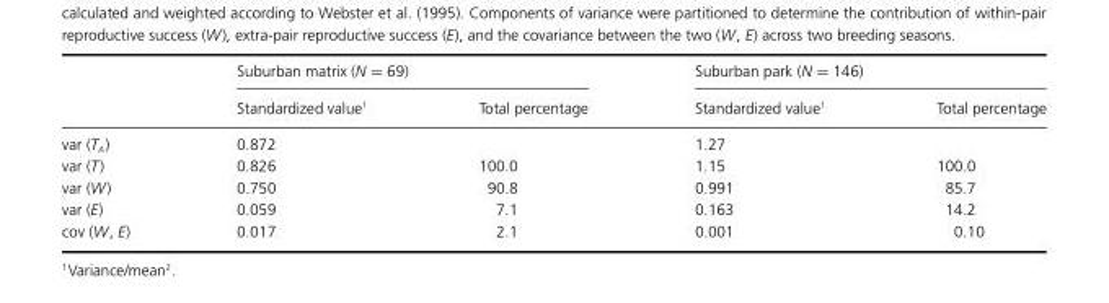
<table><thead><tr><td rowspan="2"></td><td colspan="2">Suburban matrix (N = 69)</td><td colspan="2">Suburban park (N = 146)</td></tr><tr><td>Standardized value<sup>1</sup></td><td>Total percentage</td><td>Standardized value<sup>1</sup></td><td>Total percentage</td></tr></thead><tbody><tr><td>var (T<sub>A</sub>)</td><td>0.872</td><td></td><td>1.27</td><td></td></tr><tr><td>var (T)</td><td>0.826</td><td>100.0</td><td>1.15</td><td>100.0</td></tr><tr><td>var (W)</td><td>0.750</td><td>90.8</td><td>0.991</td><td>85.7</td></tr><tr><td>var (E)</td><td>0.059</td><td>7.1</td><td>0.163</td><td>14.2</td></tr><tr><td>cov (W, E)</td><td>0.017</td><td>2.1</td><td>0.001</td><td>0.10</td></tr></tbody></table>